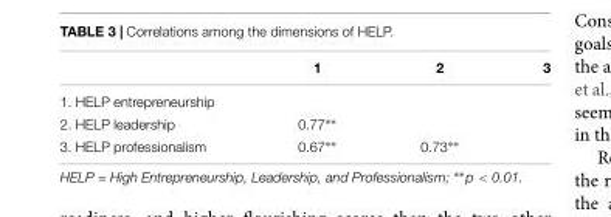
<table><thead><tr><td></td><td>1</td><td>2</td><td>3</td></tr></thead><tbody><tr><td colspan="4">1. HELP entrepreneurship</td></tr><tr><td>2. HELP leadership</td><td>0.77∗∗</td><td></td><td></td></tr><tr><td>3. HELP professionalism</td><td>0.67∗∗</td><td>0.73∗∗</td><td></td></tr></tbody></table>